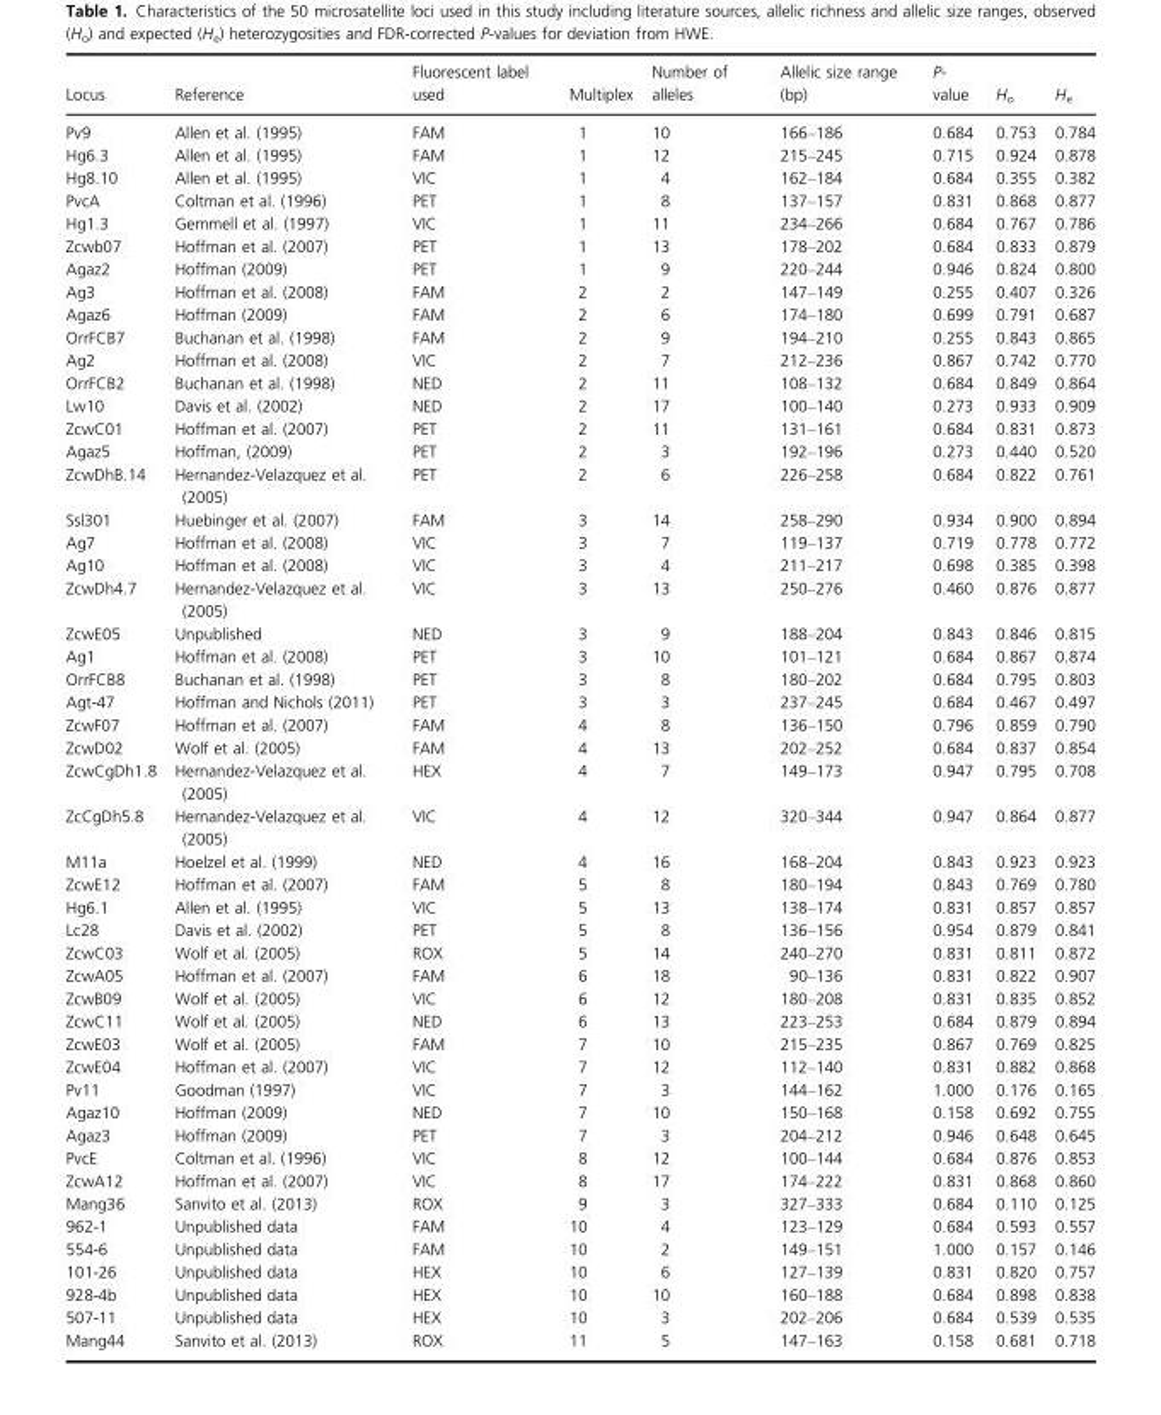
<table><thead><tr><td>Locus</td><td>Reference</td><td>Fluorescent label used</td><td>Multiplex</td><td>Number of alleles</td><td>Allelic size range (bp)</td><td>P- value</td><td>H<sub>o</sub></td><td>H<sub>e</sub></td></tr></thead><tbody><tr><td>Pv9</td><td>Allen et al. (1995)</td><td>FAM</td><td>1</td><td>10</td><td>166–186</td><td>0.684</td><td>0.753</td><td>0.784</td></tr><tr><td>Hg6.3</td><td>Allen et al. (1995)</td><td>FAM</td><td>1</td><td>12</td><td>215–245</td><td>0.715</td><td>0.924</td><td>0.878</td></tr><tr><td>Hg8.10</td><td>Allen et al. (1995)</td><td>VIC</td><td>1</td><td>4</td><td>162–184</td><td>0.684</td><td>0.355</td><td>0.382</td></tr><tr><td>PvcA</td><td>Coltman et al. (1996)</td><td>PET</td><td>1</td><td>8</td><td>137–157</td><td>0.831</td><td>0.868</td><td>0.877</td></tr><tr><td>Hg1.3</td><td>Gemmell et al. (1997)</td><td>VIC</td><td>1</td><td>11</td><td>234–266</td><td>0.684</td><td>0.767</td><td>0.786</td></tr><tr><td>Zcwb07</td><td>Hoffman et al. (2007)</td><td>PET</td><td>1</td><td>13</td><td>178–202</td><td>0.684</td><td>0.833</td><td>0.879</td></tr><tr><td>Agaz2</td><td>Hoffman (2009)</td><td>PET</td><td>1</td><td>9</td><td>220–244</td><td>0.946</td><td>0.824</td><td>0.800</td></tr><tr><td>Ag3</td><td>Hoffman et al. (2008)</td><td>FAM</td><td>2</td><td>2</td><td>147–149</td><td>0.255</td><td>0.407</td><td>0.326</td></tr><tr><td>Agaz6</td><td>Hoffman (2009)</td><td>FAM</td><td>2</td><td>6</td><td>174–180</td><td>0.699</td><td>0.791</td><td>0.687</td></tr><tr><td>OrrFCB7</td><td>Buchanan et al. (1998)</td><td>FAM</td><td>2</td><td>9</td><td>194–210</td><td>0.255</td><td>0.843</td><td>0.865</td></tr><tr><td>Ag2</td><td>Hoffman et al. (2008)</td><td>VIC</td><td>2</td><td>7</td><td>212–236</td><td>0.867</td><td>0.742</td><td>0.770</td></tr><tr><td>OrrFCB2</td><td>Buchanan et al. (1998)</td><td>NED</td><td>2</td><td>11</td><td>108–132</td><td>0.684</td><td>0.849</td><td>0.864</td></tr><tr><td>Lw10</td><td>Davis et al. (2002)</td><td>NED</td><td>2</td><td>17</td><td>100–140</td><td>0.273</td><td>0.933</td><td>0.909</td></tr><tr><td>ZcwC01</td><td>Hoffman et al. (2007)</td><td>PET</td><td>2</td><td>11</td><td>131–161</td><td>0.684</td><td>0.831</td><td>0.873</td></tr><tr><td>Agaz5</td><td>Hoffman, (2009)</td><td>PET</td><td>2</td><td>3</td><td>192–196</td><td>0.273</td><td>0.440</td><td>0.520</td></tr><tr><td>ZcwDhB.14</td><td>Hernandez-Velazquez et al. (2005)</td><td>PET</td><td>2</td><td>6</td><td>226–258</td><td>0.684</td><td>0.822</td><td>0.761</td></tr><tr><td>Ssl301</td><td>Huebinger et al. (2007)</td><td>FAM</td><td>3</td><td>14</td><td>258–290</td><td>0.934</td><td>0.900</td><td>0.894</td></tr><tr><td>Ag7</td><td>Hoffman et al. (2008)</td><td>VIC</td><td>3</td><td>7</td><td>119–137</td><td>0.719</td><td>0.778</td><td>0.772</td></tr><tr><td>Ag10</td><td>Hoffman et al. (2008)</td><td>VIC</td><td>3</td><td>4</td><td>211–217</td><td>0.698</td><td>0.385</td><td>0.398</td></tr><tr><td>ZcwDh4.7</td><td>Hernandez-Velazquez et al. (2005)</td><td>VIC</td><td>3</td><td>13</td><td>250–276</td><td>0.460</td><td>0.876</td><td>0.877</td></tr><tr><td>ZcwE05</td><td>Unpublished</td><td>NED</td><td>3</td><td>9</td><td>188–204</td><td>0.843</td><td>0.846</td><td>0.815</td></tr><tr><td>Ag1</td><td>Hoffman et al. (2008)</td><td>PET</td><td>3</td><td>10</td><td>101–121</td><td>0.684</td><td>0.867</td><td>0.874</td></tr><tr><td>OrrFCB8</td><td>Buchanan et al. (1998)</td><td>PET</td><td>3</td><td>8</td><td>180–202</td><td>0.684</td><td>0.795</td><td>0.803</td></tr><tr><td>Agt-47</td><td>Hoffman and Nichols (2011)</td><td>PET</td><td>3</td><td>3</td><td>237–245</td><td>0.684</td><td>0.467</td><td>0.497</td></tr><tr><td>ZcwF07</td><td>Hoffman et al. (2007)</td><td>FAM</td><td>4</td><td>8</td><td>136–150</td><td>0.796</td><td>0.859</td><td>0.790</td></tr><tr><td>ZcwD02</td><td>Wolf et al. (2005)</td><td>FAM</td><td>4</td><td>13</td><td>202–252</td><td>0.684</td><td>0.837</td><td>0.854</td></tr><tr><td>ZcwCgDh1.8</td><td>Hernandez-Velazquez et al. (2005)</td><td>HEX</td><td>4</td><td>7</td><td>149–173</td><td>0.947</td><td>0.795</td><td>0.708</td></tr><tr><td>ZcCgDh5.8</td><td>Hernandez-Velazquez et al. (2005)</td><td>VIC</td><td>4</td><td>12</td><td>320–344</td><td>0.947</td><td>0.864</td><td>0.877</td></tr><tr><td>M11a</td><td>Hoelzel et al. (1999)</td><td>NED</td><td>4</td><td>16</td><td>168–204</td><td>0.843</td><td>0.923</td><td>0.923</td></tr><tr><td>ZcwE12</td><td>Hoffman et al. (2007)</td><td>FAM</td><td>5</td><td>8</td><td>180–194</td><td>0.843</td><td>0.769</td><td>0.780</td></tr><tr><td>Hg6.1</td><td>Allen et al. (1995)</td><td>VIC</td><td>5</td><td>13</td><td>138–174</td><td>0.831</td><td>0.857</td><td>0.857</td></tr><tr><td>Lc28</td><td>Davis et al. (2002)</td><td>PET</td><td>5</td><td>8</td><td>136–156</td><td>0.954</td><td>0.879</td><td>0.841</td></tr><tr><td>ZcwC03</td><td>Wolf et al. (2005)</td><td>ROX</td><td>5</td><td>14</td><td>240–270</td><td>0.831</td><td>0.811</td><td>0.872</td></tr><tr><td>ZcwA05</td><td>Hoffman et al. (2007)</td><td>FAM</td><td>6</td><td>18</td><td>90–136</td><td>0.831</td><td>0.822</td><td>0.907</td></tr><tr><td>ZcwB09</td><td>Wolf et al. (2005)</td><td>VIC</td><td>6</td><td>12</td><td>180–208</td><td>0.831</td><td>0.835</td><td>0.852</td></tr><tr><td>ZcwC11</td><td>Wolf et al. (2005)</td><td>NED</td><td>6</td><td>13</td><td>223–253</td><td>0.684</td><td>0.879</td><td>0.894</td></tr><tr><td>ZcwE03</td><td>Wolf et al. (2005)</td><td>FAM</td><td>7</td><td>10</td><td>215–235</td><td>0.867</td><td>0.769</td><td>0.825</td></tr><tr><td>ZcwE04</td><td>Hoffman et al. (2007)</td><td>VIC</td><td>7</td><td>12</td><td>112–140</td><td>0.831</td><td>0.882</td><td>0.868</td></tr><tr><td>Pv11</td><td>Goodman (1997)</td><td>VIC</td><td>7</td><td>3</td><td>144–162</td><td>1.000</td><td>0.176</td><td>0.165</td></tr><tr><td>Agaz10</td><td>Hoffman (2009)</td><td>NED</td><td>7</td><td>10</td><td>150–168</td><td>0.158</td><td>0.692</td><td>0.755</td></tr><tr><td>Agaz3</td><td>Hoffman (2009)</td><td>PET</td><td>7</td><td>3</td><td>204–212</td><td>0.946</td><td>0.648</td><td>0.645</td></tr><tr><td>PvcE</td><td>Coltman et al. (1996)</td><td>VIC</td><td>8</td><td>12</td><td>100–144</td><td>0.684</td><td>0.876</td><td>0.853</td></tr><tr><td>ZcwA12</td><td>Hoffman et al. (2007)</td><td>VIC</td><td>8</td><td>17</td><td>174–222</td><td>0.831</td><td>0.868</td><td>0.860</td></tr><tr><td>Mang36</td><td>Sanvito et al. (2013)</td><td>ROX</td><td>9</td><td>3</td><td>327–333</td><td>0.684</td><td>0.110</td><td>0.125</td></tr><tr><td>962-1</td><td>Unpublished data</td><td>FAM</td><td>10</td><td>4</td><td>123–129</td><td>0.684</td><td>0.593</td><td>0.557</td></tr><tr><td>554-6</td><td>Unpublished data</td><td>FAM</td><td>10</td><td>2</td><td>149–151</td><td>1.000</td><td>0.157</td><td>0.146</td></tr><tr><td>101-26</td><td>Unpublished data</td><td>HEX</td><td>10</td><td>6</td><td>127–139</td><td>0.831</td><td>0.820</td><td>0.757</td></tr><tr><td>928-4b</td><td>Unpublished data</td><td>HEX</td><td>10</td><td>10</td><td>160–188</td><td>0.684</td><td>0.898</td><td>0.838</td></tr><tr><td>507-11</td><td>Unpublished data</td><td>HEX</td><td>10</td><td>3</td><td>202–206</td><td>0.684</td><td>0.539</td><td>0.535</td></tr><tr><td>Mang44</td><td>Sanvito et al. (2013)</td><td>ROX</td><td>11</td><td>5</td><td>147–163</td><td>0.158</td><td>0.681</td><td>0.718</td></tr></tbody></table>